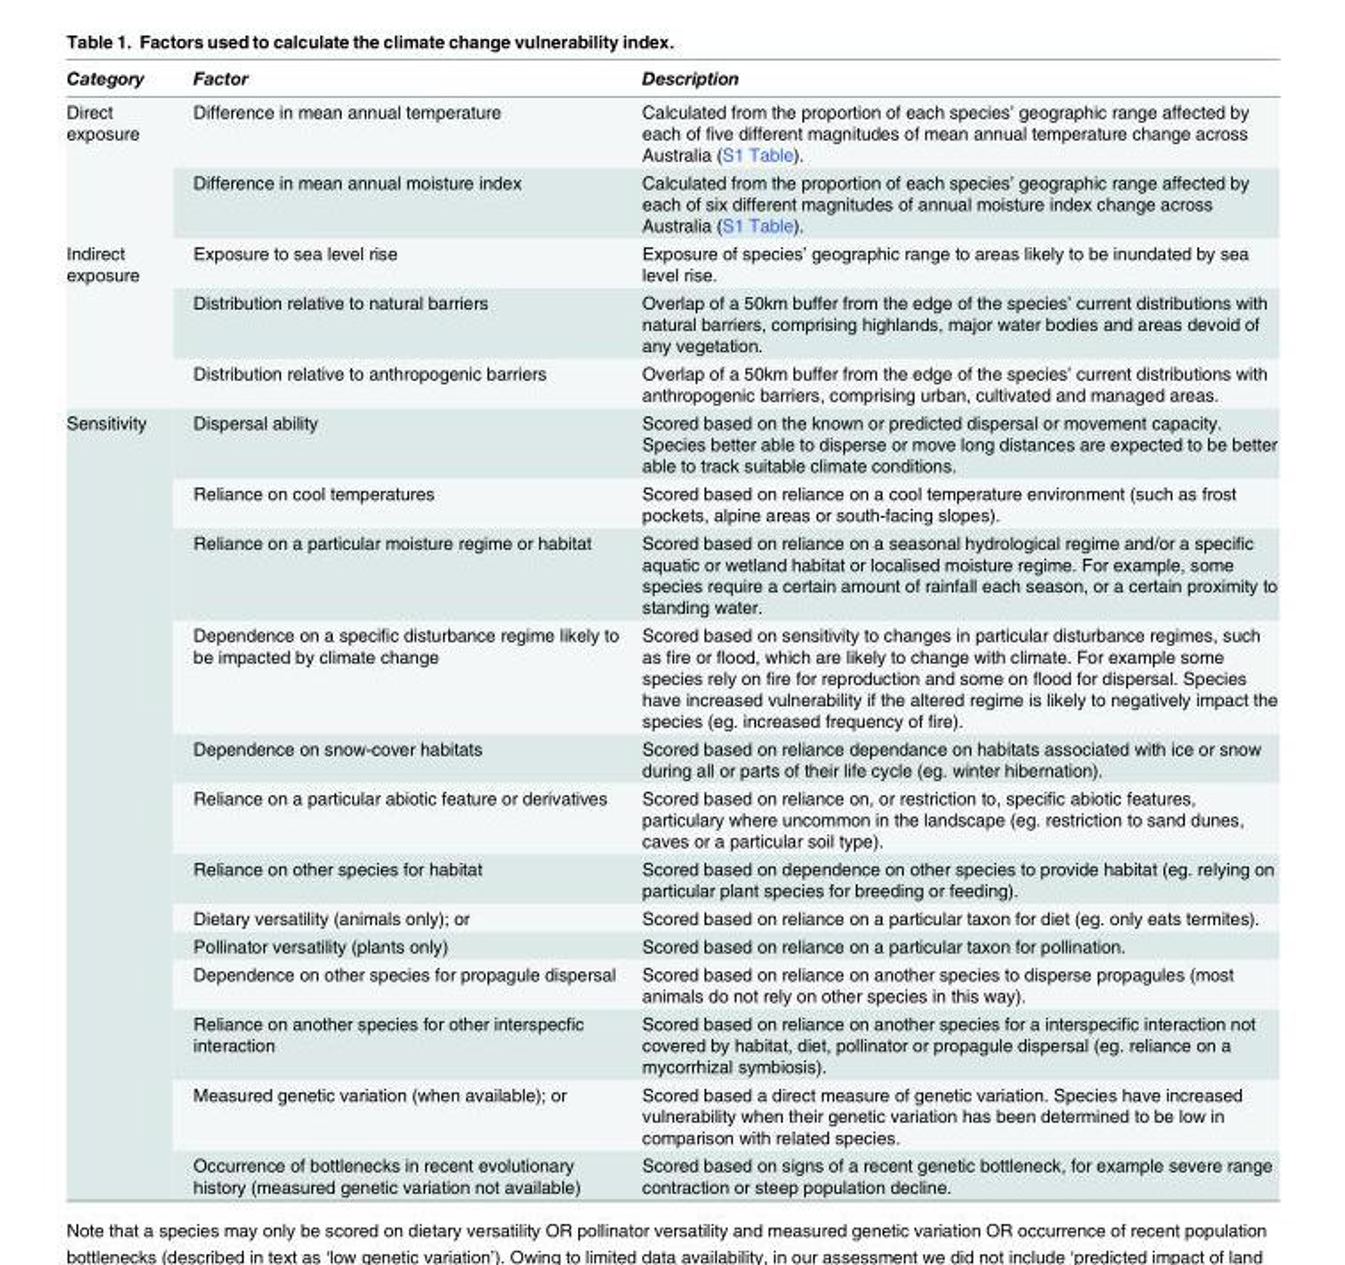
<table><thead><tr><td>Category</td><td>Factor</td><td>Description</td></tr></thead><tbody><tr><td rowspan="2">Direct exposure</td><td>Difference in mean annual temperature</td><td>Calculated from the proportion of each species’ geographic range affected by each of five different magnitudes of mean annual temperature change across Australia (S1 Table).</td></tr><tr><td>Difference in mean annual moisture index</td><td>Calculated from the proportion of each species’ geographic range affected by each of six different magnitudes of annual moisture index change across Australia (S1 Table).</td></tr><tr><td rowspan="3">Indirect exposure</td><td>Exposure to sea level rise</td><td>Exposure of species’ geographic range to areas likely to be inundated by sea level rise.</td></tr><tr><td>Distribution relative to natural barriers</td><td>Overlap of a 50km buffer from the edge of the species’ current distributions with natural barriers, comprising highlands, major water bodies and areas devoid of any vegetation.</td></tr><tr><td>Distribution relative to anthropogenic barriers</td><td>Overlap of a 50km buffer from the edge of the species’ current distributions with anthropogenic barriers, comprising urban, cultivated and managed areas.</td></tr><tr><td rowspan="13">Sensitivity</td><td>Dispersal ability</td><td>Scored based on the known or predicted dispersal or movement capacity. Species better able to disperse or move long distances are expected to be better able to track suitable climate conditions.</td></tr><tr><td>Reliance on cool temperatures</td><td>Scored based on reliance on a cool temperature environment (such as frost pockets, alpine areas or south-facing slopes).</td></tr><tr><td>Reliance on a particular moisture regime or habitat</td><td>Scored based on reliance on a seasonal hydrological regime and/or a specific aquatic or wetland habitat or localised moisture regime. For example, some species require a certain amount of rainfall each season, or a certain proximity to standing water.</td></tr><tr><td>Dependence on a specific disturbance regime likely to be impacted by climate change</td><td>Scored based on sensitivity to changes in particular disturbance regimes, such as fire or flood, which are likely to change with climate. For example some species rely on fire for reproduction and some on flood for dispersal. Species have increased vulnerability if the altered regime is likely to negatively impact the species (eg. increased frequency of fire).</td></tr><tr><td>Dependence on snow-cover habitats</td><td>Scored based on reliance dependance on habitats associated with ice or snow during all or parts of their life cycle (eg. winter hibernation).</td></tr><tr><td>Reliance on a particular abiotic feature or derivatives</td><td>Scored based on reliance on, or restriction to, specific abiotic features, particulary where uncommon in the landscape (eg. restriction to sand dunes, caves or a particular soil type).</td></tr><tr><td>Reliance on other species for habitat</td><td>Scored based on dependence on other species to provide habitat (eg. relying on particular plant species for breeding or feeding).</td></tr><tr><td>Dietary versatility (animals only); or</td><td>Scored based on reliance on a particular taxon for diet (eg. only eats termites).</td></tr><tr><td>Pollinator versatility (plants only)</td><td>Scored based on reliance on a particular taxon for pollination.</td></tr><tr><td>Dependence on other species for propagule dispersal</td><td>Scored based on reliance on another species to disperse propagules (most animals do not rely on other species in this way).</td></tr><tr><td>Reliance on another species for other interspecfic interaction</td><td>Scored based on reliance on another species for a interspecific interaction not covered by habitat, diet, pollinator or propagule dispersal (eg. reliance on a mycorrhizal symbiosis).</td></tr><tr><td>Measured genetic variation (when available); or</td><td>Scored based a direct measure of genetic variation. Species have increased vulnerability when their genetic variation has been determined to be low in comparison with related species.</td></tr><tr><td>Occurrence of bottlenecks in recent evolutionary history (measured genetic variation not available)</td><td>Scored based on signs of a recent genetic bottleneck, for example severe range contraction or steep population decline.</td></tr></tbody></table>